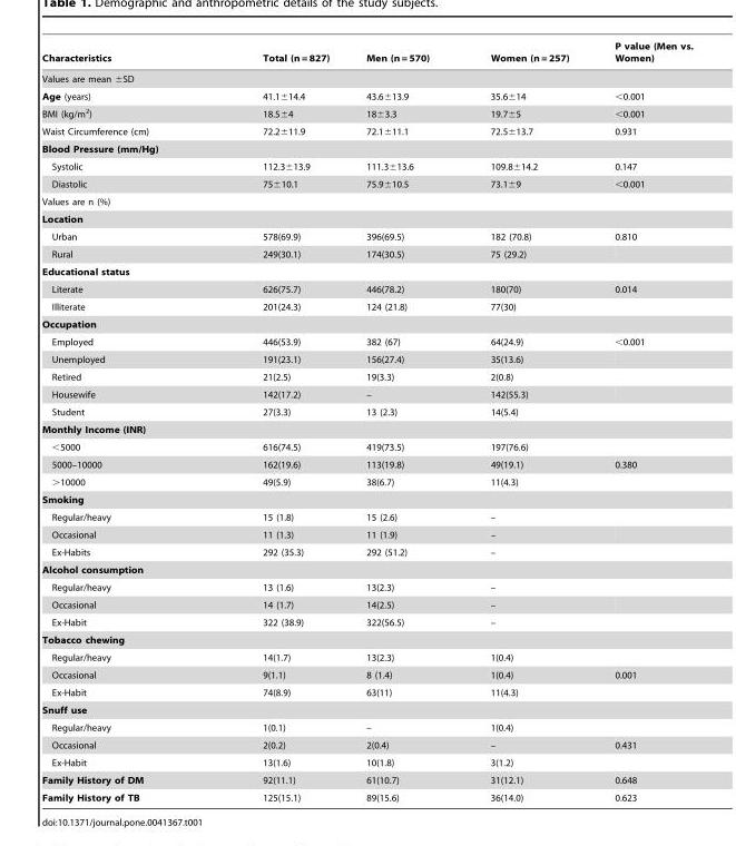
<table><thead><tr><td>Characteristics</td><td>Total (n = 827)</td><td>Men (n = 570)</td><td>Women (n = 257)</td><td>P value (Men vs. Women)</td></tr></thead><tbody><tr><td colspan="5">Values are mean ±SD</td></tr><tr><td>Age (years)</td><td>41.1±14.4</td><td>43.6±13.9</td><td>35.6±14</td><td>&lt;0.001</td></tr><tr><td>BMI (kg/m<sup>2</sup>)</td><td>18.5±4</td><td>18±3.3</td><td>19.7±5</td><td>&lt;0.001</td></tr><tr><td>Waist Circumference (cm)</td><td>72.2±11.9</td><td>72.1±11.1</td><td>72.5±13.7</td><td>0.931</td></tr><tr><td colspan="5">Blood Pressure (mm/Hg)</td></tr><tr><td>Systolic</td><td>112.3±13.9</td><td>111.3±13.6</td><td>109.8±14.2</td><td>0.147</td></tr><tr><td>Diastolic</td><td>75±10.1</td><td>75.9±10.5</td><td>73.1±9</td><td>&lt;0.001</td></tr><tr><td colspan="5">Values are n (%)</td></tr><tr><td colspan="5">Location</td></tr><tr><td>Urban</td><td>578(69.9)</td><td>396(69.5)</td><td>182 (70.8)</td><td>0.810</td></tr><tr><td>Rural</td><td>249(30.1)</td><td>174(30.5)</td><td>75 (29.2)</td><td></td></tr><tr><td colspan="5">Educational status</td></tr><tr><td>Literate</td><td>626(75.7)</td><td>446(78.2)</td><td>180(70)</td><td>0.014</td></tr><tr><td>Illiterate</td><td>201(24.3)</td><td>124 (21.8)</td><td>77(30)</td><td></td></tr><tr><td colspan="5">Occupation</td></tr><tr><td>Employed</td><td>446(53.9)</td><td>382 (67)</td><td>64(24.9)</td><td>&lt;0.001</td></tr><tr><td>Unemployed</td><td>191(23.1)</td><td>156(27.4)</td><td>35(13.6)</td><td></td></tr><tr><td>Retired</td><td>21(2.5)</td><td>19(3.3)</td><td>2(0.8)</td><td></td></tr><tr><td>Housewife</td><td>142(17.2)</td><td>–</td><td>142(55.3)</td><td></td></tr><tr><td>Student</td><td>27(3.3)</td><td>13 (2.3)</td><td>14(5.4)</td><td></td></tr><tr><td colspan="5">Monthly Income (INR)</td></tr><tr><td>&lt;5000</td><td>616(74.5)</td><td>419(73.5)</td><td>197(76.6)</td><td></td></tr><tr><td>5000–10000</td><td>162(19.6)</td><td>113(19.8)</td><td>49(19.1)</td><td>0.380</td></tr><tr><td>&gt;10000</td><td>49(5.9)</td><td>38(6.7)</td><td>11(4.3)</td><td></td></tr><tr><td colspan="5">Smoking</td></tr><tr><td>Regular/heavy</td><td>15 (1.8)</td><td>15 (2.6)</td><td>–</td><td></td></tr><tr><td>Occasional</td><td>11 (1.3)</td><td>11 (1.9)</td><td>–</td><td></td></tr><tr><td>Ex-Habits</td><td>292 (35.3)</td><td>292 (51.2)</td><td>–</td><td></td></tr><tr><td colspan="5">Alcohol consumption</td></tr><tr><td>Regular/heavy</td><td>13 (1.6)</td><td>13(2.3)</td><td>–</td><td></td></tr><tr><td>Occasional</td><td>14 (1.7)</td><td>14(2.5)</td><td>–</td><td></td></tr><tr><td>Ex-Habit</td><td>322 (38.9)</td><td>322(56.5)</td><td>–</td><td></td></tr><tr><td colspan="5">Tobacco chewing</td></tr><tr><td>Regular/heavy</td><td>14(1.7)</td><td>13(2.3)</td><td>1(0.4)</td><td></td></tr><tr><td>Occasional</td><td>9(1.1)</td><td>8 (1.4)</td><td>1(0.4)</td><td>0.001</td></tr><tr><td>Ex-Habit</td><td>74(8.9)</td><td>63(11)</td><td>11(4.3)</td><td></td></tr><tr><td colspan="5">Snuff use</td></tr><tr><td>Regular/heavy</td><td>1(0.1)</td><td>–</td><td>1(0.4)</td><td></td></tr><tr><td>Occasional</td><td>2(0.2)</td><td>2(0.4)</td><td>–</td><td>0.431</td></tr><tr><td>Ex-Habit</td><td>13(1.6)</td><td>10(1.8)</td><td>3(1.2)</td><td></td></tr><tr><td>Family History of DM</td><td>92(11.1)</td><td>61(10.7)</td><td>31(12.1)</td><td>0.648</td></tr><tr><td>Family History of TB</td><td>125(15.1)</td><td>89(15.6)</td><td>36(14.0)</td><td>0.623</td></tr></tbody></table>